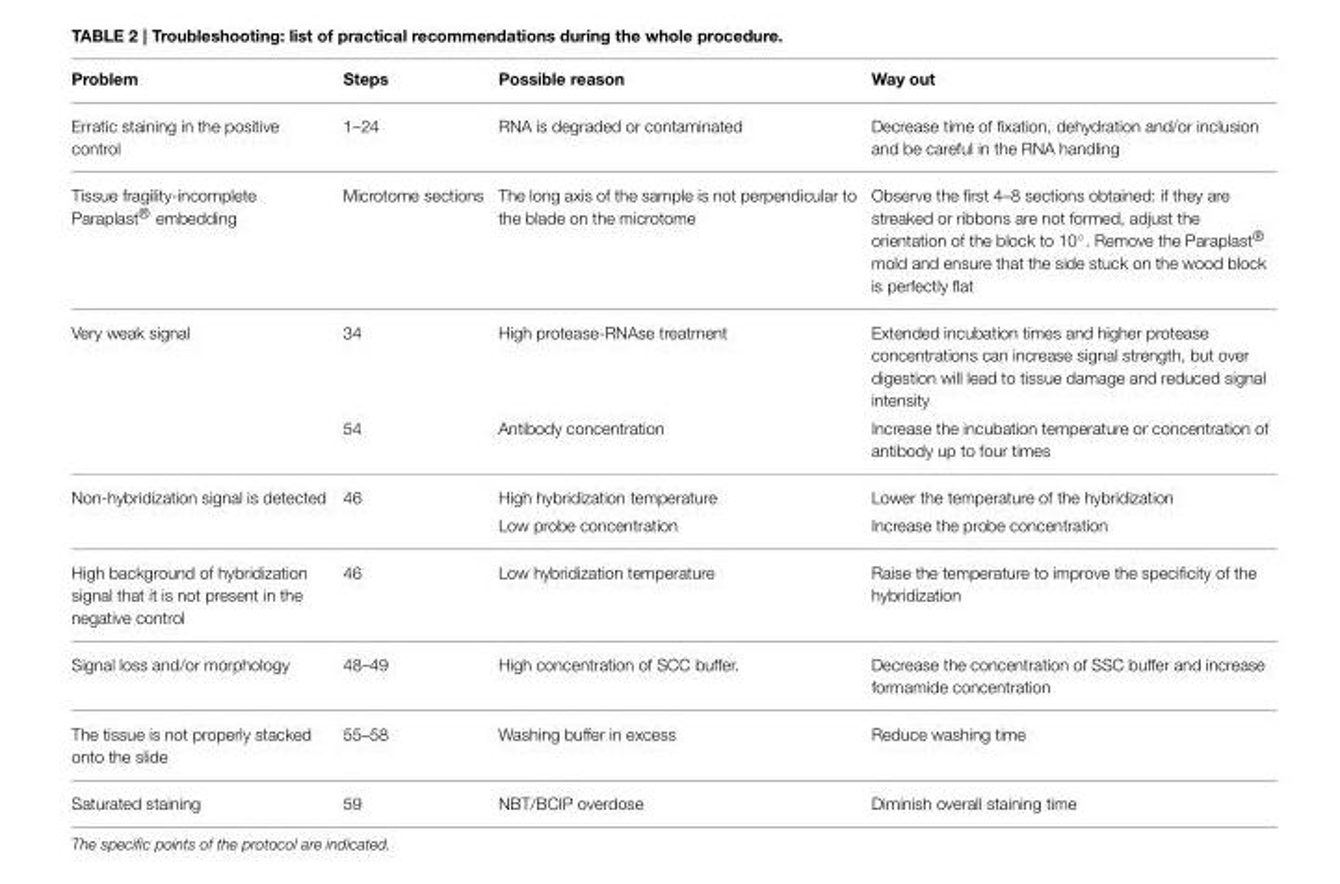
<table><thead><tr><td>Problem</td><td>Steps</td><td>Possible reason</td><td>Way out</td></tr></thead><tbody><tr><td>Erratic staining in the positive control</td><td>1–24</td><td>RNA is degraded or contaminated</td><td>Decrease time of fixation, dehydration and/or inclusion and be careful in the RNA handling</td></tr><tr><td>Tissue fragility-incomplete Paraplast® embedding</td><td>Microtome sections</td><td>The long axis of the sample is not perpendicular to the blade on the microtome</td><td>Observe the first 4–8 sections obtained: if they are streaked or ribbons are not formed, adjust the orientation of the block to 10◦. Remove the Paraplast® mold and ensure that the side stuck on the wood block is perfectly flat</td></tr><tr><td rowspan="2">Very weak signal</td><td>34</td><td>High protease-RNAse treatment</td><td>Extended incubation times and higher protease concentrations can increase signal strength, but over digestion will lead to tissue damage and reduced signal intensity</td></tr><tr><td>54</td><td>Antibody concentration</td><td>Increase the incubation temperature or concentration of antibody up to four times</td></tr><tr><td rowspan="2">Non-hybridization signal is detected</td><td>46</td><td>High hybridization temperature</td><td>Lower the temperature of the hybridization</td></tr><tr><td></td><td>Low probe concentration</td><td>Increase the probe concentration</td></tr><tr><td>High background of hybridization signal that it is not present in the negative control</td><td>46</td><td>Low hybridization temperature</td><td>Raise the temperature to improve the specificity of the hybridization</td></tr><tr><td>Signal loss and/or morphology</td><td>48–49</td><td>High concentration of SCC buffer.</td><td>Decrease the concentration of SSC buffer and increase formamide concentration</td></tr><tr><td>The tissue is not properly stacked onto the slide</td><td>55–58</td><td>Washing buffer in excess</td><td>Reduce washing time</td></tr><tr><td>Saturated staining</td><td>59</td><td>NBT/BCIP overdose</td><td>Diminish overall staining time</td></tr></tbody></table>